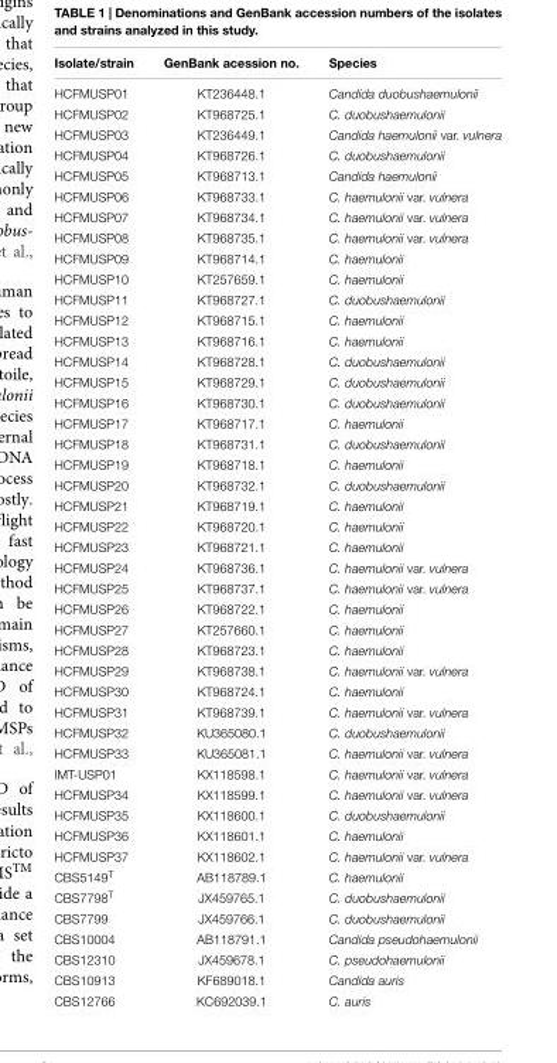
<table><thead><tr><td>Isolate/strain</td><td>GenBank acession no.</td><td>Species</td></tr></thead><tbody><tr><td>HCFMUSP01</td><td>KT236448.1</td><td>Candida duobushaemulonii</td></tr><tr><td>HCFMUSP02</td><td>KT968725.1</td><td>C. duobushaemulonii</td></tr><tr><td>HCFMUSP03</td><td>KT236449.1</td><td>Candida haemulonii var. vulnera</td></tr><tr><td>HCFMUSP04</td><td>KT968726.1</td><td>C. duobushaemulonii</td></tr><tr><td>HCFMUSP05</td><td>KT968713.1</td><td>Candida haemulonii</td></tr><tr><td>HCFMUSP06</td><td>KT968733.1</td><td>C. haemulonii var. vulnera</td></tr><tr><td>HCFMUSP07</td><td>KT968734.1</td><td>C. haemulonii var. vulnera</td></tr><tr><td>HCFMUSP08</td><td>KT968735.1</td><td>C. haemulonii var. vulnera</td></tr><tr><td>HCFMUSP09</td><td>KT968714.1</td><td>C. haemulonii</td></tr><tr><td>HCFMUSP10</td><td>KT257659.1</td><td>C. haemulonii</td></tr><tr><td>HCFMUSP11</td><td>KT968727.1</td><td>C. duobushaemulonii</td></tr><tr><td>HCFMUSP12</td><td>KT968715.1</td><td>C. haemulonii</td></tr><tr><td>HCFMUSP13</td><td>KT968716.1</td><td>C. haemulonii</td></tr><tr><td>HCFMUSP14</td><td>KT968728.1</td><td>C. duobushaemulonii</td></tr><tr><td>HCFMUSP15</td><td>KT968729.1</td><td>C. duobushaemulonii</td></tr><tr><td>HCFMUSP16</td><td>KT968730.1</td><td>C. duobushaemulonii</td></tr><tr><td>HCFMUSP17</td><td>KT968717.1</td><td>C. haemulonii</td></tr><tr><td>HCFMUSP18</td><td>KT968731.1</td><td>C. duobushaemulonii</td></tr><tr><td>HCFMUSP19</td><td>KT968718.1</td><td>C. haemulonii</td></tr><tr><td>HCFMUSP20</td><td>KT968732.1</td><td>C. duobushaemulonii</td></tr><tr><td>HCFMUSP21</td><td>KT968719.1</td><td>C. haemulonii</td></tr><tr><td>HCFMUSP22</td><td>KT968720.1</td><td>C. haemulonii</td></tr><tr><td>HCFMUSP23</td><td>KT968721.1</td><td>C. haemulonii</td></tr><tr><td>HCFMUSP24</td><td>KT968736.1</td><td>C. haemulonii var. vulnera</td></tr><tr><td>HCFMUSP25</td><td>KT968737.1</td><td>C. haemulonii var. vulnera</td></tr><tr><td>HCFMUSP26</td><td>KT968722.1</td><td>C. haemulonii</td></tr><tr><td>HCFMUSP27</td><td>KT257660.1</td><td>C. haemulonii</td></tr><tr><td>HCFMUSP28</td><td>KT968723.1</td><td>C. haemulonii</td></tr><tr><td>HCFMUSP29</td><td>KT968738.1</td><td>C. haemulonii var. vulnera</td></tr><tr><td>HCFMUSP30</td><td>KT968724.1</td><td>C. haemulonii</td></tr><tr><td>HCFMUSP31</td><td>KT968739.1</td><td>C. haemulonii var. vulnera</td></tr><tr><td>HCFMUSP32</td><td>KU365080.1</td><td>C. duobushaemulonii</td></tr><tr><td>HCFMUSP33</td><td>KU365081.1</td><td>C. haemulonii var. vulnera</td></tr><tr><td>IMT-USP01</td><td>KX118598.1</td><td>C. haemulonii var. vulnera</td></tr><tr><td>HCFMUSP34</td><td>KX118599.1</td><td>C. haemulonii var. vulnera</td></tr><tr><td>HCFMUSP35</td><td>KX118600.1</td><td>C. duobushaemulonii</td></tr><tr><td>HCFMUSP36</td><td>KX118601.1</td><td>C. haemulonii</td></tr><tr><td>HCFMUSP37</td><td>KX118602.1</td><td>C. haemulonii var. vulnera</td></tr><tr><td>CBS5149<sup>T</sup></td><td>AB118789.1</td><td>C. haemulonii</td></tr><tr><td>CBS7798<sup>T</sup></td><td>JX459765.1</td><td>C. duobushaemulonii</td></tr><tr><td>CBS7799</td><td>JX459766.1</td><td>C. duobushaemulonii</td></tr><tr><td>CBS10004</td><td>AB118791.1</td><td>Candida pseudohaemulonii</td></tr><tr><td>CBS12310</td><td>JX459678.1</td><td>C. pseudohaemulonii</td></tr><tr><td>CBS10913</td><td>KF689018.1</td><td>Candida auris</td></tr><tr><td>CBS12766</td><td>KC692039.1</td><td>C. auris</td></tr></tbody></table>